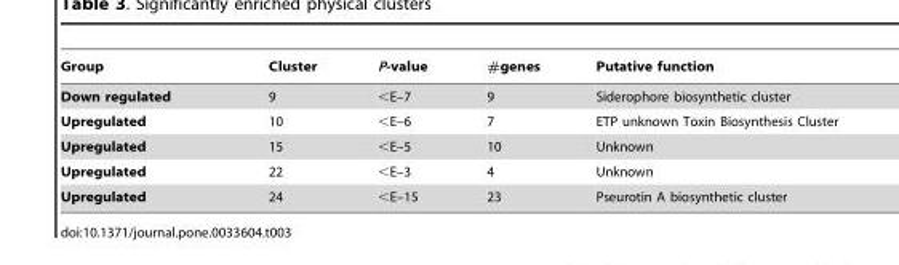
<table><thead><tr><td>Group</td><td>Cluster</td><td>P-value</td><td>#genes</td><td>Putative function</td></tr></thead><tbody><tr><td>Down regulated</td><td>9</td><td>&lt;E–7</td><td>9</td><td>Siderophore biosynthetic cluster</td></tr><tr><td>Upregulated</td><td>10</td><td>&lt;E–6</td><td>7</td><td>ETP unknown Toxin Biosynthesis Cluster</td></tr><tr><td>Upregulated</td><td>15</td><td>&lt;E–5</td><td>10</td><td>Unknown</td></tr><tr><td>Upregulated</td><td>22</td><td>&lt;E–3</td><td>4</td><td>Unknown</td></tr><tr><td>Upregulated</td><td>24</td><td>&lt;E–15</td><td>23</td><td>Pseurotin A biosynthetic cluster</td></tr></tbody></table>